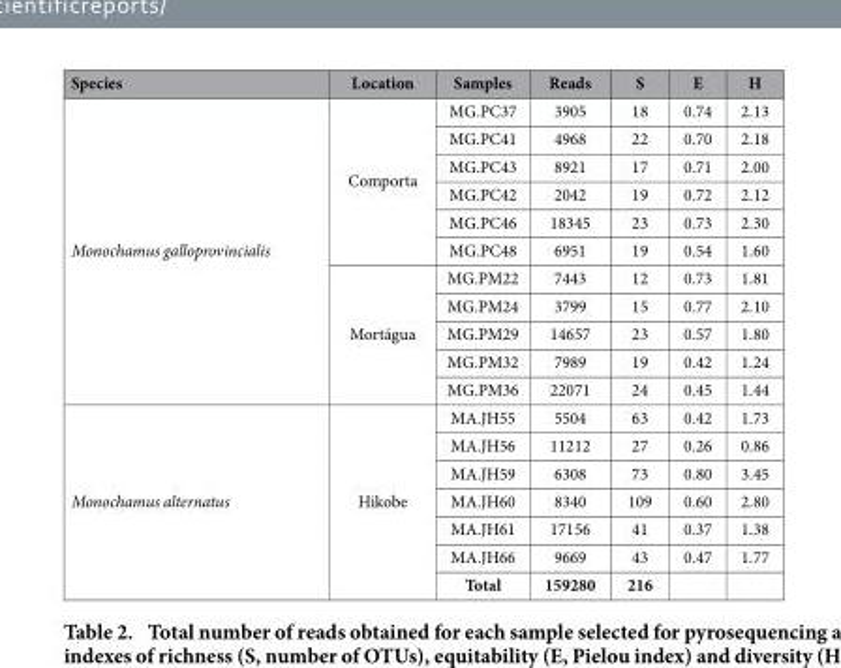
<table><thead><tr><td>Species</td><td>Location</td><td>Samples</td><td>Reads</td><td>S</td><td>E</td><td>H</td></tr></thead><tbody><tr><td rowspan="11">Monochamus galloprovincialis</td><td rowspan="6">Comporta</td><td>MG.PC37</td><td>3905</td><td>18</td><td>0.74</td><td>2.13</td></tr><tr><td>MG.PC41</td><td>4968</td><td>22</td><td>0.70</td><td>2.18</td></tr><tr><td>MG.PC43</td><td>8921</td><td>17</td><td>0.71</td><td>2.00</td></tr><tr><td>MG.PC42</td><td>2042</td><td>19</td><td>0.72</td><td>2.12</td></tr><tr><td>MG.PC46</td><td>18345</td><td>23</td><td>0.73</td><td>2.30</td></tr><tr><td>MG.PC48</td><td>6951</td><td>19</td><td>0.54</td><td>1.60</td></tr><tr><td rowspan="5">Mortágua</td><td>MG.PM22</td><td>7443</td><td>12</td><td>0.73</td><td>1.81</td></tr><tr><td>MG.PM24</td><td>3799</td><td>15</td><td>0.77</td><td>2.10</td></tr><tr><td>MG.PM29</td><td>14657</td><td>23</td><td>0.57</td><td>1.80</td></tr><tr><td>MG.PM32</td><td>7989</td><td>19</td><td>0.42</td><td>1.24</td></tr><tr><td>MG.PM36</td><td>22071</td><td>24</td><td>0.45</td><td>1.44</td></tr><tr><td rowspan="7">Monochamus alternatus</td><td rowspan="7">Hikobe</td><td>MA.JH55</td><td>5504</td><td>63</td><td>0.42</td><td>1.73</td></tr><tr><td>MA.JH56</td><td>11212</td><td>27</td><td>0.26</td><td>0.86</td></tr><tr><td>MA.JH59</td><td>6308</td><td>73</td><td>0.80</td><td>3.45</td></tr><tr><td>MA.JH60</td><td>8340</td><td>109</td><td>0.60</td><td>2.80</td></tr><tr><td>MA.JH61</td><td>17156</td><td>41</td><td>0.37</td><td>1.38</td></tr><tr><td>MA.JH66</td><td>9669</td><td>43</td><td>0.47</td><td>1.77</td></tr><tr><td>Total</td><td>159280</td><td>216</td><td></td><td></td></tr></tbody></table>